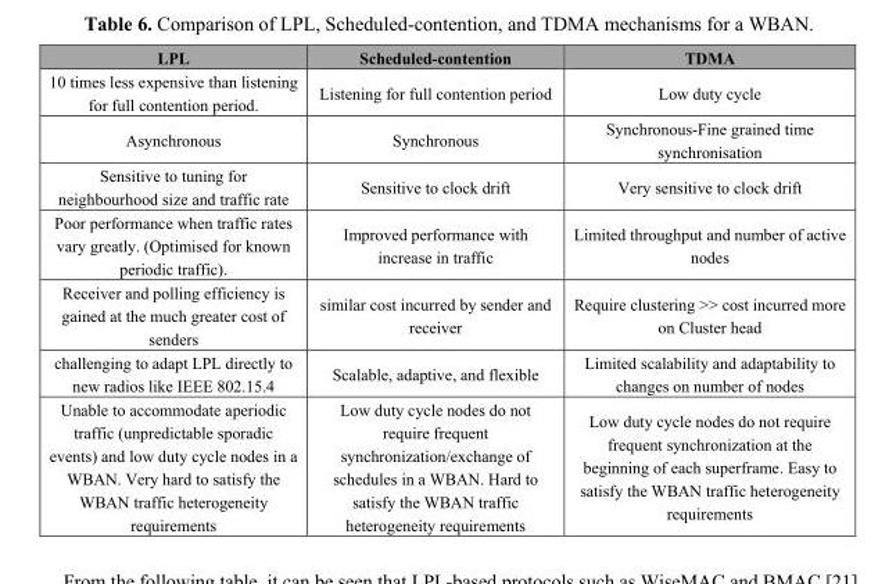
<table><thead><tr><td>LPL</td><td>Scheduled-contention</td><td>TDMA</td></tr></thead><tbody><tr><td>10 times less expensive than listening for full contention period.</td><td>Listening for full contention period</td><td>Low duty cycle</td></tr><tr><td>Asynchronous</td><td>Synchronous</td><td>Synchronous-Fine grained time synchronisation</td></tr><tr><td>Sensitive to tuning for neighbourhood size and traffic rate</td><td>Sensitive to clock drift</td><td>Very sensitive to clock drift</td></tr><tr><td>Poor performance when traffic rates vary greatly. (Optimised for known periodic traffic).</td><td>Improved performance with increase in traffic</td><td>Limited throughput and number of active nodes</td></tr><tr><td>Receiver and polling efficiency is gained at the much greater cost of senders</td><td>similar cost incurred by sender and receiver</td><td>Require clustering &gt;&gt; cost incurred more on Cluster head</td></tr><tr><td>challenging to adapt LPL directly to new radios like IEEE 802.15.4</td><td>Scalable, adaptive, and flexible</td><td>Limited scalability and adaptability to changes on number of nodes</td></tr><tr><td>Unable to accommodate aperiodic traffic (unpredictable sporadic events) and low duty cycle nodes in a WBAN. Very hard to satisfy the WBAN traffic heterogeneity requirements</td><td>Low duty cycle nodes do not require frequent synchronization/exchange of schedules in a WBAN. Hard to satisfy the WBAN traffic heterogeneity requirements</td><td>Low duty cycle nodes do not require frequent synchronization at the beginning of each superframe. Easy to satisfy the WBAN traffic heterogeneity requirements</td></tr></tbody></table>